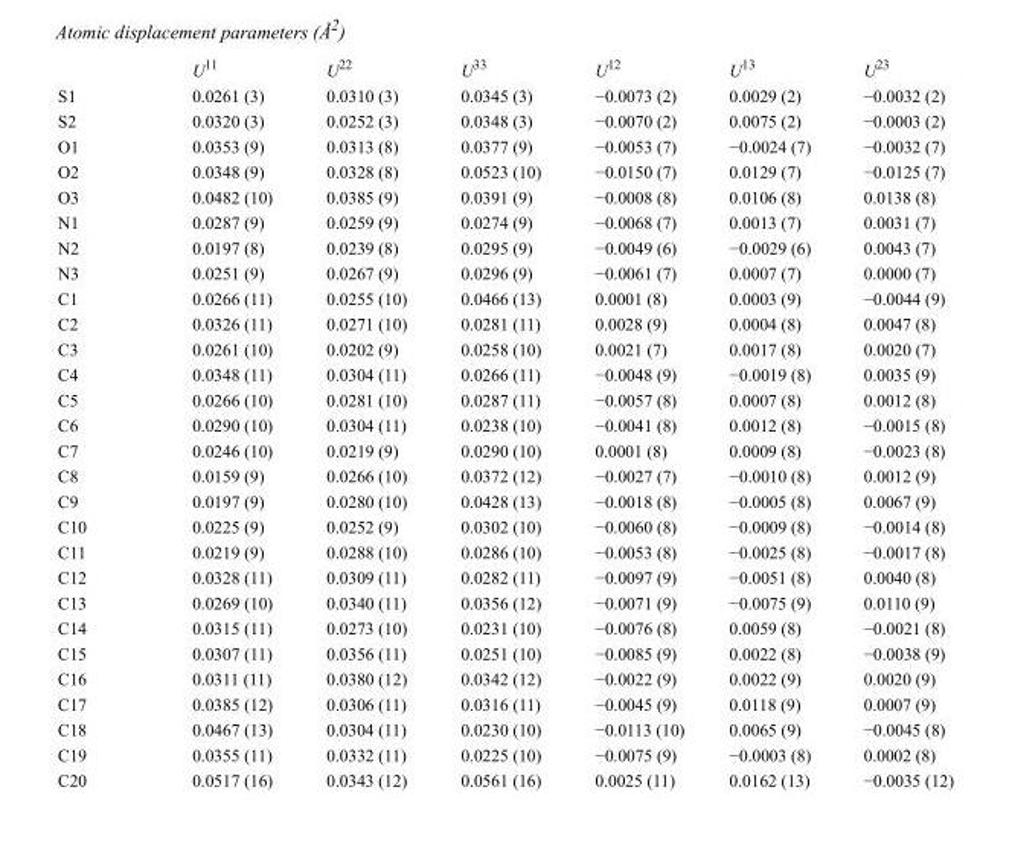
<table><thead><tr><td></td><td>U<sup>11</sup></td><td>U<sup>22</sup></td><td>U<sup>33</sup></td><td>U<sup>12</sup></td><td>U<sup>13</sup></td><td>U<sup>23</sup></td></tr></thead><tbody><tr><td>S1</td><td>0.0261 (3)</td><td>0.0310 (3)</td><td>0.0345 (3)</td><td>−0.0073 (2)</td><td>0.0029 (2)</td><td>−0.0032 (2)</td></tr><tr><td>S2</td><td>0.0320 (3)</td><td>0.0252 (3)</td><td>0.0348 (3)</td><td>−0.0070 (2)</td><td>0.0075 (2)</td><td>−0.0003 (2)</td></tr><tr><td>O1</td><td>0.0353 (9)</td><td>0.0313 (8)</td><td>0.0377 (9)</td><td>−0.0053 (7)</td><td>−0.0024 (7)</td><td>−0.0032 (7)</td></tr><tr><td>O2</td><td>0.0348 (9)</td><td>0.0328 (8)</td><td>0.0523 (10)</td><td>−0.0150 (7)</td><td>0.0129 (7)</td><td>−0.0125 (7)</td></tr><tr><td>O3</td><td>0.0482 (10)</td><td>0.0385 (9)</td><td>0.0391 (9)</td><td>−0.0008 (8)</td><td>0.0106 (8)</td><td>0.0138 (8)</td></tr><tr><td>N1</td><td>0.0287 (9)</td><td>0.0259 (9)</td><td>0.0274 (9)</td><td>−0.0068 (7)</td><td>0.0013 (7)</td><td>0.0031 (7)</td></tr><tr><td>N2</td><td>0.0197 (8)</td><td>0.0239 (8)</td><td>0.0295 (9)</td><td>−0.0049 (6)</td><td>−0.0029 (6)</td><td>0.0043 (7)</td></tr><tr><td>N3</td><td>0.0251 (9)</td><td>0.0267 (9)</td><td>0.0296 (9)</td><td>−0.0061 (7)</td><td>0.0007 (7)</td><td>0.0000 (7)</td></tr><tr><td>C1</td><td>0.0266 (11)</td><td>0.0255 (10)</td><td>0.0466 (13)</td><td>0.0001 (8)</td><td>0.0003 (9)</td><td>−0.0044 (9)</td></tr><tr><td>C2</td><td>0.0326 (11)</td><td>0.0271 (10)</td><td>0.0281 (11)</td><td>0.0028 (9)</td><td>0.0004 (8)</td><td>0.0047 (8)</td></tr><tr><td>C3</td><td>0.0261 (10)</td><td>0.0202 (9)</td><td>0.0258 (10)</td><td>0.0021 (7)</td><td>0.0017 (8)</td><td>0.0020 (7)</td></tr><tr><td>C4</td><td>0.0348 (11)</td><td>0.0304 (11)</td><td>0.0266 (11)</td><td>−0.0048 (9)</td><td>−0.0019 (8)</td><td>0.0035 (9)</td></tr><tr><td>C5</td><td>0.0266 (10)</td><td>0.0281 (10)</td><td>0.0287 (11)</td><td>−0.0057 (8)</td><td>0.0007 (8)</td><td>0.0012 (8)</td></tr><tr><td>C6</td><td>0.0290 (10)</td><td>0.0304 (11)</td><td>0.0238 (10)</td><td>−0.0041 (8)</td><td>0.0012 (8)</td><td>−0.0015 (8)</td></tr><tr><td>C7</td><td>0.0246 (10)</td><td>0.0219 (9)</td><td>0.0290 (10)</td><td>0.0001 (8)</td><td>0.0009 (8)</td><td>−0.0023 (8)</td></tr><tr><td>C8</td><td>0.0159 (9)</td><td>0.0266 (10)</td><td>0.0372 (12)</td><td>−0.0027 (7)</td><td>−0.0010 (8)</td><td>0.0012 (9)</td></tr><tr><td>C9</td><td>0.0197 (9)</td><td>0.0280 (10)</td><td>0.0428 (13)</td><td>−0.0018 (8)</td><td>−0.0005 (8)</td><td>0.0067 (9)</td></tr><tr><td>C10</td><td>0.0225 (9)</td><td>0.0252 (9)</td><td>0.0302 (10)</td><td>−0.0060 (8)</td><td>−0.0009 (8)</td><td>−0.0014 (8)</td></tr><tr><td>C11</td><td>0.0219 (9)</td><td>0.0288 (10)</td><td>0.0286 (10)</td><td>−0.0053 (8)</td><td>−0.0025 (8)</td><td>−0.0017 (8)</td></tr><tr><td>C12</td><td>0.0328 (11)</td><td>0.0309 (11)</td><td>0.0282 (11)</td><td>−0.0097 (9)</td><td>−0.0051 (8)</td><td>0.0040 (8)</td></tr><tr><td>C13</td><td>0.0269 (10)</td><td>0.0340 (11)</td><td>0.0356 (12)</td><td>−0.0071 (9)</td><td>−0.0075 (9)</td><td>0.0110 (9)</td></tr><tr><td>C14</td><td>0.0315 (11)</td><td>0.0273 (10)</td><td>0.0231 (10)</td><td>−0.0076 (8)</td><td>0.0059 (8)</td><td>−0.0021 (8)</td></tr><tr><td>C15</td><td>0.0307 (11)</td><td>0.0356 (11)</td><td>0.0251 (10)</td><td>−0.0085 (9)</td><td>0.0022 (8)</td><td>−0.0038 (9)</td></tr><tr><td>C16</td><td>0.0311 (11)</td><td>0.0380 (12)</td><td>0.0342 (12)</td><td>−0.0022 (9)</td><td>0.0022 (9)</td><td>0.0020 (9)</td></tr><tr><td>C17</td><td>0.0385 (12)</td><td>0.0306 (11)</td><td>0.0316 (11)</td><td>−0.0045 (9)</td><td>0.0118 (9)</td><td>0.0007 (9)</td></tr><tr><td>C18</td><td>0.0467 (13)</td><td>0.0304 (11)</td><td>0.0230 (10)</td><td>−0.0113 (10)</td><td>0.0065 (9)</td><td>−0.0045 (8)</td></tr><tr><td>C19</td><td>0.0355 (11)</td><td>0.0332 (11)</td><td>0.0225 (10)</td><td>−0.0075 (9)</td><td>−0.0003 (8)</td><td>0.0002 (8)</td></tr><tr><td>C20</td><td>0.0517 (16)</td><td>0.0343 (12)</td><td>0.0561 (16)</td><td>0.0025 (11)</td><td>0.0162 (13)</td><td>−0.0035 (12)</td></tr></tbody></table>